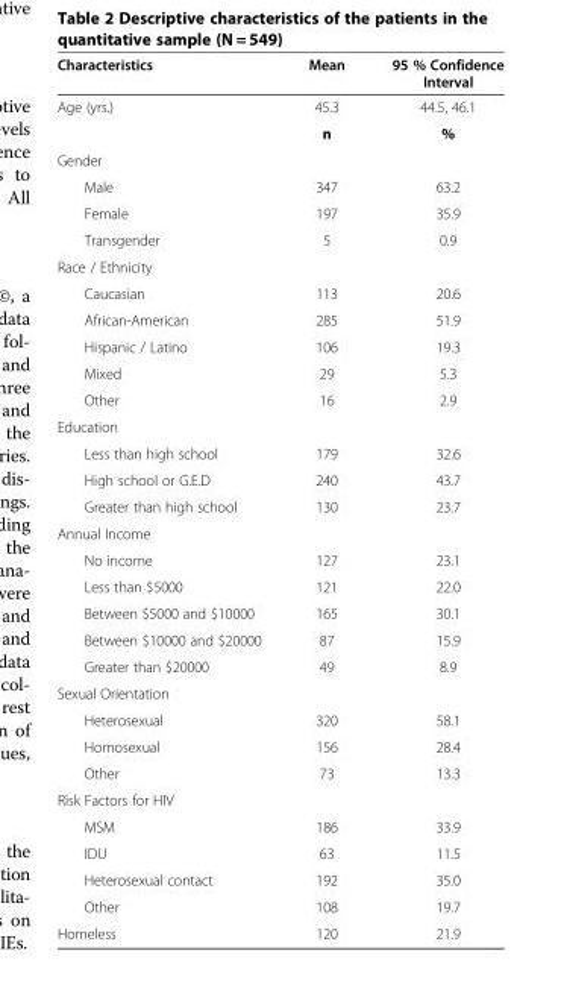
<table><thead><tr><td>Characteristics</td><td>Mean</td><td>95 % Confidence Interval</td></tr></thead><tbody><tr><td rowspan="2">Age (yrs.)</td><td>45.3</td><td>44.5, 46.1</td></tr><tr><td>n</td><td>%</td></tr><tr><td colspan="3">Gender</td></tr><tr><td>Male</td><td>347</td><td>63.2</td></tr><tr><td>Female</td><td>197</td><td>35.9</td></tr><tr><td>Transgender</td><td>5</td><td>0.9</td></tr><tr><td colspan="3">Race / Ethnicity</td></tr><tr><td>Caucasian</td><td>113</td><td>20.6</td></tr><tr><td>African-American</td><td>285</td><td>51.9</td></tr><tr><td>Hispanic / Latino</td><td>106</td><td>19.3</td></tr><tr><td>Mixed</td><td>29</td><td>5.3</td></tr><tr><td>Other</td><td>16</td><td>2.9</td></tr><tr><td colspan="3">Education</td></tr><tr><td>Less than high school</td><td>179</td><td>32.6</td></tr><tr><td>High school or G.E.D</td><td>240</td><td>43.7</td></tr><tr><td>Greater than high school</td><td>130</td><td>23.7</td></tr><tr><td colspan="3">Annual Income</td></tr><tr><td>No income</td><td>127</td><td>23.1</td></tr><tr><td>Less than $5000</td><td>121</td><td>22.0</td></tr><tr><td>Between $5000 and $10000</td><td>165</td><td>30.1</td></tr><tr><td>Between $10000 and $20000</td><td>87</td><td>15.9</td></tr><tr><td>Greater than $20000</td><td>49</td><td>8.9</td></tr><tr><td colspan="3">Sexual Orientation</td></tr><tr><td>Heterosexual</td><td>320</td><td>58.1</td></tr><tr><td>Homosexual</td><td>156</td><td>28.4</td></tr><tr><td>Other</td><td>73</td><td>13.3</td></tr><tr><td colspan="3">Risk Factors for HIV</td></tr><tr><td>MSM</td><td>186</td><td>33.9</td></tr><tr><td>IDU</td><td>63</td><td>11.5</td></tr><tr><td>Heterosexual contact</td><td>192</td><td>35.0</td></tr><tr><td>Other</td><td>108</td><td>19.7</td></tr><tr><td>Homeless</td><td>120</td><td>21.9</td></tr></tbody></table>